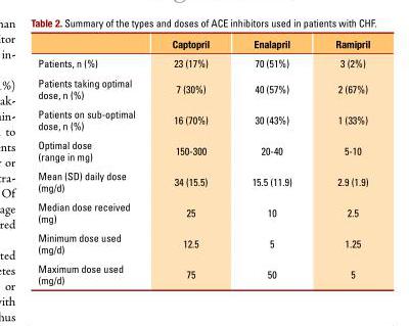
<table><thead><tr><td></td><td>Captopril</td><td>Enalapril</td><td>Ramipril</td></tr></thead><tbody><tr><td>Patients, n (%)</td><td>23 (17%)</td><td>70 (51%)</td><td>3 (2%)</td></tr><tr><td>Patients taking optimal dose, n (%)</td><td>7 (30%)</td><td>40 (57%)</td><td>2 (67%)</td></tr><tr><td>Patients on sub-optimal dose, n (%)</td><td>16 (70%)</td><td>30 (43%)</td><td>1 (33%)</td></tr><tr><td>optimal dose (range in mg)</td><td>150-300</td><td>20-40</td><td>5-10</td></tr><tr><td>Mean (Sd) daily dose (mg/d)</td><td>34 (15.5)</td><td>15.5 (11.9)</td><td>2.9 (1.9)</td></tr><tr><td>Median dose received (mg)</td><td>25</td><td>10</td><td>2.5</td></tr><tr><td>Minimum dose used (mg/d)</td><td>12.5</td><td>5</td><td>1.25</td></tr><tr><td>Maximum dose used (mg/d)</td><td>75</td><td>50</td><td>5</td></tr></tbody></table>